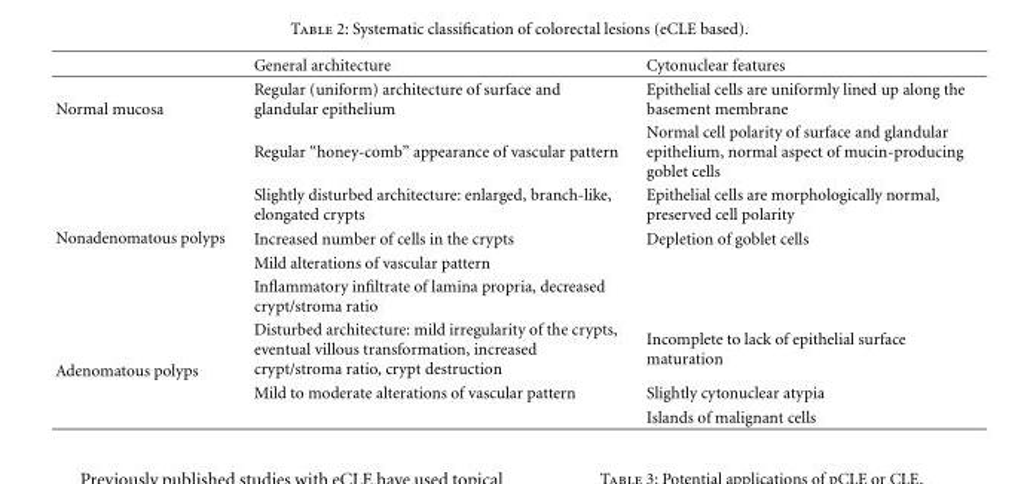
<table><thead><tr><td></td><td>General architecture</td><td>Cytonuclear features</td></tr></thead><tbody><tr><td rowspan="2">Normal mucosa</td><td>Regular (uniform) architecture of surface and glandular epithelium</td><td>Epithelial cells are uniformly lined up along the basement membrane</td></tr><tr><td>Regular “honey-comb” appearance of vascular pattern</td><td>Normal cell polarity of surface and glandular epithelium, normal aspect of mucin-producing goblet cells</td></tr><tr><td rowspan="4">Nonadenomatous polyps</td><td>Slightly disturbed architecture: enlarged, branch-like, elongated crypts</td><td>Epithelial cells are morphologically normal, preserved cell polarity</td></tr><tr><td>Increased number of cells in the crypts</td><td>Depletion of goblet cells</td></tr><tr><td>Mild alterations of vascular pattern</td><td></td></tr><tr><td>Inflammatory infiltrate of lamina propria, decreased crypt/stroma ratio</td><td></td></tr><tr><td rowspan="3">Adenomatous polyps</td><td>Disturbed architecture: mild irregularity of the crypts, eventual villous transformation, increased crypt/stroma ratio, crypt destruction</td><td>Incomplete to lack of epithelial surface maturation</td></tr><tr><td>Mild to moderate alterations of vascular pattern</td><td>Slightly cytonuclear atypia</td></tr><tr><td></td><td>Islands of malignant cells</td></tr></tbody></table>